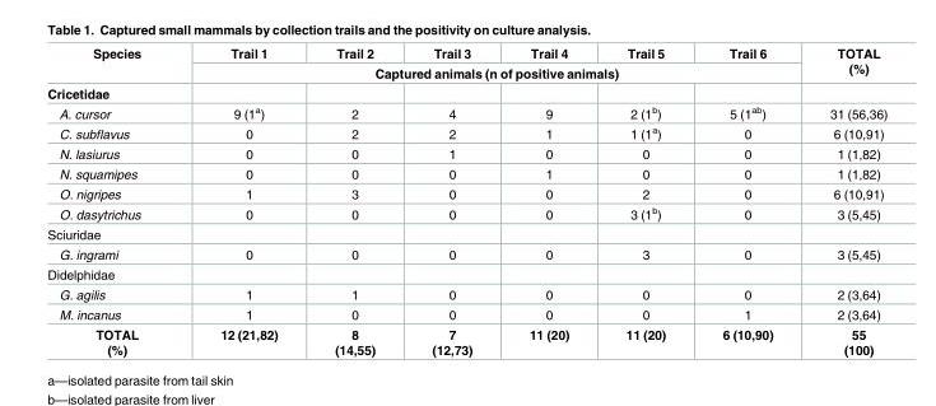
<table><thead><tr><td rowspan="3">Species Cricetidae</td><td>Trail 1</td><td>Trail 2</td><td>Trail 3</td><td>Trail 4</td><td>Trail 5</td><td>Trail 6</td><td rowspan="3">TOTAL (%)</td></tr><tr><td colspan="6">Captured animals (n of positive animals)</td></tr><tr><td></td><td></td><td></td><td></td><td></td><td></td></tr></thead><tbody><tr><td>A. cursor</td><td>9 (1<sup>a</sup>)</td><td>2</td><td>4</td><td>9</td><td>2 (1<sup>b</sup>)</td><td>5 (1<sup>ab</sup>)</td><td>31 (56,36)</td></tr><tr><td>C. subflavus</td><td>0</td><td>2</td><td>2</td><td>1</td><td>1 (1<sup>a</sup>)</td><td>0</td><td>6 (10,91)</td></tr><tr><td>N. lasiurus</td><td>0</td><td>0</td><td>1</td><td>0</td><td>0</td><td>0</td><td>1 (1,82)</td></tr><tr><td>N. squamipes</td><td>0</td><td>0</td><td>0</td><td>1</td><td>0</td><td>0</td><td>1 (1,82)</td></tr><tr><td>O. nigripes</td><td>1</td><td>3</td><td>0</td><td>0</td><td>2</td><td>0</td><td>6 (10,91)</td></tr><tr><td>O. dasytrichus</td><td>0</td><td>0</td><td>0</td><td>0</td><td>3 (1<sup>b</sup>)</td><td>0</td><td>3 (5,45)</td></tr><tr><td colspan="8">Sciuridae</td></tr><tr><td>G. ingrami</td><td>0</td><td>0</td><td>0</td><td>0</td><td>3</td><td>0</td><td>3 (5,45)</td></tr><tr><td colspan="8">Didelphidae</td></tr><tr><td>G. agilis</td><td>1</td><td>1</td><td>0</td><td>0</td><td>0</td><td>0</td><td>2 (3,64)</td></tr><tr><td>M. incanus</td><td>1</td><td>0</td><td>0</td><td>0</td><td>0</td><td>1</td><td>2 (3,64)</td></tr><tr><td>TOTAL (%)</td><td>12 (21,82)</td><td>8 (14,55)</td><td>7 (12,73)</td><td>11 (20)</td><td>11 (20)</td><td>6 (10,90)</td><td>55 (100)</td></tr></tbody></table>